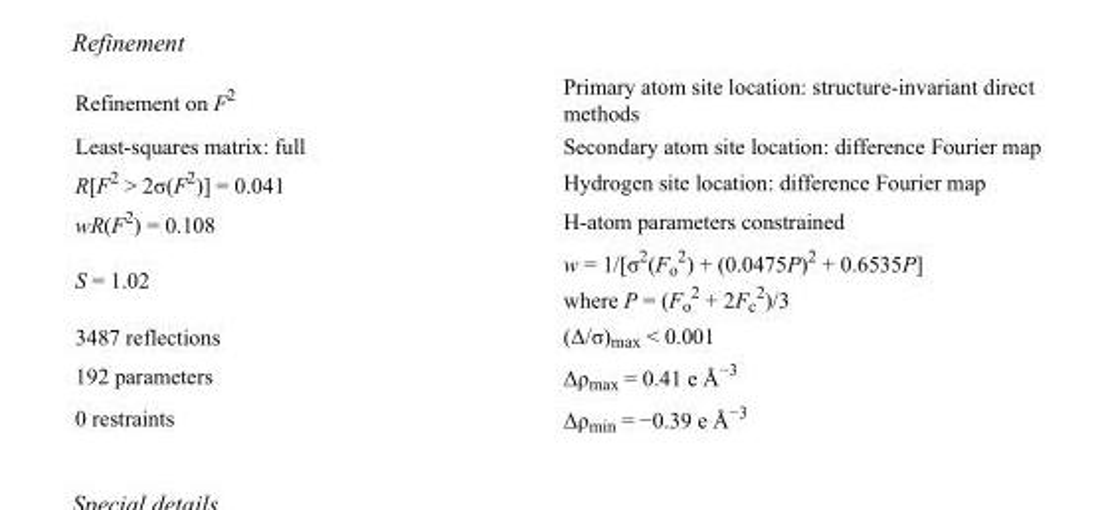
<table><tbody><tr><td>Refinement on F<sup>2</sup></td><td>Primary atom site location: structure-invariant direct methods</td></tr><tr><td>Least-squares matrix: full</td><td>Secondary atom site location: difference Fourier map</td></tr><tr><td>R[F<sup>2</sup> &gt; 2σ(F<sup>2</sup>)] = 0.041</td><td>Hydrogen site location: difference Fourier map</td></tr><tr><td>wR(F<sup>2</sup>) = 0.108</td><td>H-atom parameters constrained</td></tr><tr><td>S = 1.02</td><td>w = 1/[σ<sup>2</sup>(F<sub>o</sub> <sup>2</sup>) + (0.0475P)<sup>2</sup> + 0.6535P] where P = (F<sub>o</sub> <sup>2</sup> + 2F<sub>c</sub> <sup>2</sup>)/3</td></tr><tr><td>3487 reflections</td><td>(Δ/σ)<sub>max</sub> &lt; 0.001</td></tr><tr><td>192 parameters</td><td>Δρ<sub>max</sub> = 0.41 e Å<sup>−3</sup></td></tr><tr><td>0 restraints</td><td>Δρ<sub>min</sub> = −0.39 e Å<sup>−3</sup></td></tr></tbody></table>